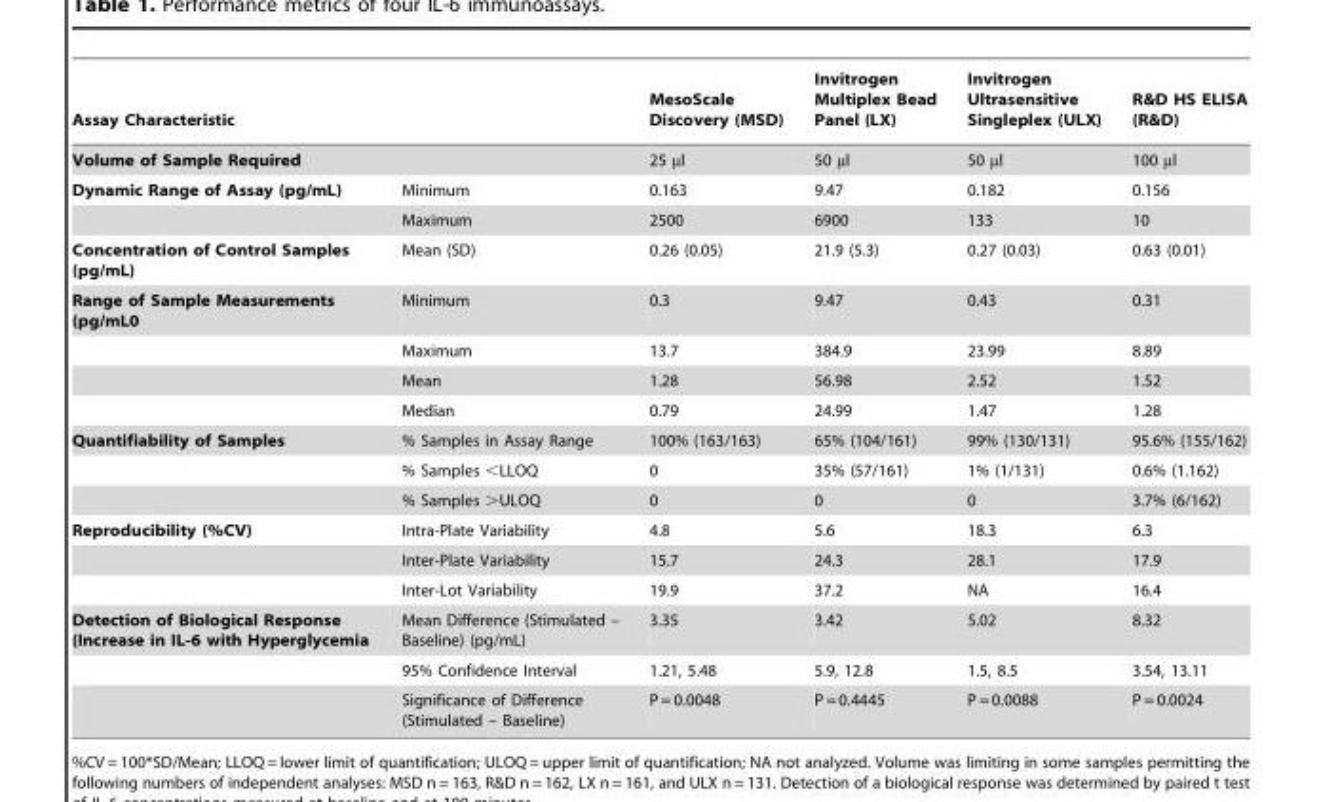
<table><thead><tr><td rowspan="2" colspan="2">Assay Characteristic Volume of Sample Required</td><td rowspan="3">MesoScale Discovery (MSD) 25 µl 0.163</td><td rowspan="3">Invitrogen Multiplex Bead Panel (LX) 50 µl 9.47</td><td rowspan="3">Invitrogen Ultrasensitive Singleplex (ULX) 50 µl 0.182</td><td rowspan="3">R&amp;D HS ELISA (R&amp;D) 100 µl 0.156</td></tr><tr></tr><tr><td>Dynamic Range of Assay (pg/mL)</td><td>Minimum</td></tr></thead><tbody><tr><td></td><td>Maximum</td><td>2500</td><td>6900</td><td>133</td><td>10</td></tr><tr><td>Concentration of Control Samples (pg/mL)</td><td>Mean (SD)</td><td>0.26 (0.05)</td><td>21.9 (5.3)</td><td>0.27 (0.03)</td><td>0.63 (0.01)</td></tr><tr><td rowspan="4">Range of Sample Measurements (pg/mL0</td><td>Minimum</td><td>0.3</td><td>9.47</td><td>0.43</td><td>0.31</td></tr><tr><td>Maximum</td><td>13.7</td><td>384.9</td><td>23.99</td><td>8.89</td></tr><tr><td>Mean</td><td>1.28</td><td>56.98</td><td>2.52</td><td>1.52</td></tr><tr><td>Median</td><td>0.79</td><td>24.99</td><td>1.47</td><td>1.28</td></tr><tr><td rowspan="3">Quantifiability of Samples</td><td>% Samples in Assay Range</td><td>100% (163/163)</td><td>65% (104/161)</td><td>99% (130/131)</td><td>95.6% (155/162)</td></tr><tr><td>% Samples &lt;LLOQ</td><td>0</td><td>35% (57/161)</td><td>1% (1/131)</td><td>0.6% (1.162)</td></tr><tr><td>% Samples &gt;ULOQ</td><td>0</td><td>0</td><td>0</td><td>3.7% (6/162)</td></tr><tr><td rowspan="3">Reproducibility (%CV)</td><td>Intra-Plate Variability</td><td>4.8</td><td>5.6</td><td>18.3</td><td>6.3</td></tr><tr><td>Inter-Plate Variability</td><td>15.7</td><td>24.3</td><td>28.1</td><td>17.9</td></tr><tr><td>Inter-Lot Variability</td><td>19.9</td><td>37.2</td><td>NA</td><td>16.4</td></tr><tr><td rowspan="3">Detection of Biological Response (Increase in IL-6 with Hyperglycemia</td><td>Mean Difference (Stimulated – Baseline) (pg/mL)</td><td>3.35</td><td>3.42</td><td>5.02</td><td>8.32</td></tr><tr><td>95% Confidence Interval</td><td>1.21, 5.48</td><td>5.9, 12.8</td><td>1.5, 8.5</td><td>3.54, 13.11</td></tr><tr><td>Significance of Difference (Stimulated – Baseline)</td><td>P = 0.0048</td><td>P = 0.4445</td><td>P = 0.0088</td><td>P = 0.0024</td></tr></tbody></table>